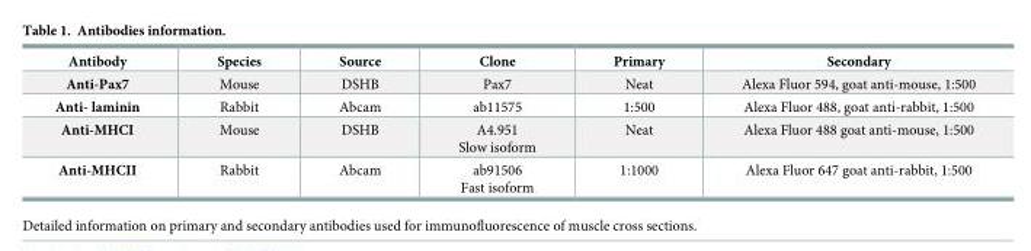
<table><thead><tr><td>Antibody</td><td>Species</td><td>Source</td><td>Clone</td><td>Primary</td><td>Secondary</td></tr></thead><tbody><tr><td>Anti-Pax7</td><td>Mouse</td><td>DSHB</td><td>Pax7</td><td>Neat</td><td>Alexa Fluor 594, goat anti-mouse, 1:500</td></tr><tr><td>Anti- laminin</td><td>Rabbit</td><td>Abcam</td><td>ab11575</td><td>1:500</td><td>Alexa Fluor 488, goat anti-rabbit, 1:500</td></tr><tr><td>Anti-MHCI</td><td>Mouse</td><td>DSHB</td><td>A4.951 Slow isoform</td><td>Neat</td><td>Alexa Fluor 488 goat anti-mouse, 1:500</td></tr><tr><td>Anti-MHCII</td><td>Rabbit</td><td>Abcam</td><td>ab91506 Fast isoform</td><td>1:1000</td><td>Alexa Fluor 647 goat anti-rabbit, 1:500</td></tr></tbody></table>